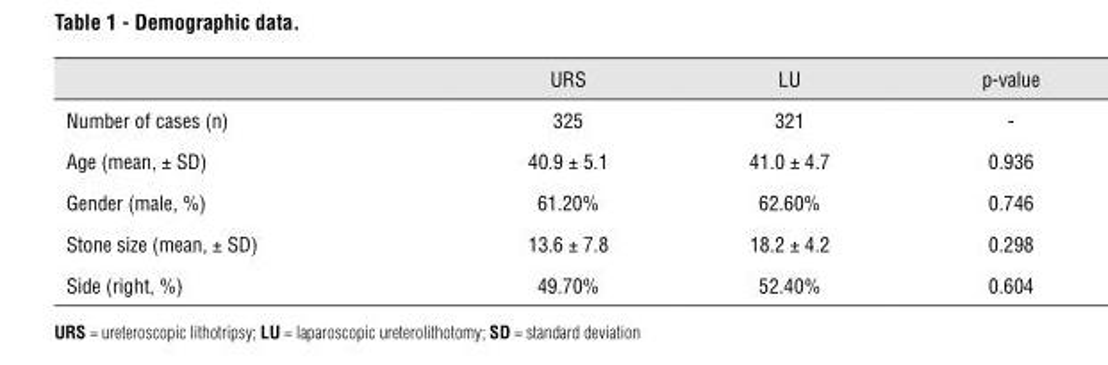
<table><thead><tr><td></td><td>URS</td><td>LU</td><td>p-value</td></tr></thead><tbody><tr><td>Number of cases (n)</td><td>325</td><td>321</td><td>-</td></tr><tr><td>Age (mean, ± SD)</td><td>40.9 ± 5.1</td><td>41.0 ± 4.7</td><td>0.936</td></tr><tr><td>Gender (male, %)</td><td>61.20%</td><td>62.60%</td><td>0.746</td></tr><tr><td>Stone size (mean, ± SD)</td><td>13.6 ± 7.8</td><td>18.2 ± 4.2</td><td>0.298</td></tr><tr><td>Side (right, %)</td><td>49.70%</td><td>52.40%</td><td>0.604</td></tr></tbody></table>